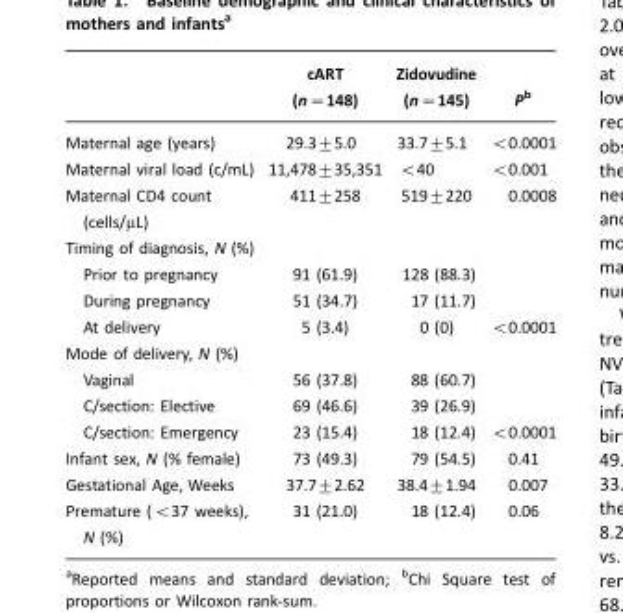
<table><thead><tr><td></td><td>cART (n=148)</td><td>Zidovudine (n=145)</td><td>P<sup>b</sup></td></tr></thead><tbody><tr><td>Maternal age (years)</td><td>29.3±5.0</td><td>33.7±5.1</td><td>&lt;0.0001</td></tr><tr><td>Maternal viral load (c/mL)</td><td>11,478±35,351</td><td>&lt;40</td><td>&lt;0.001</td></tr><tr><td>Maternal CD4 count (cells/µL)</td><td>411±258</td><td>519±220</td><td>0.0008</td></tr><tr><td colspan="4">Timing of diagnosis, N (%)</td></tr><tr><td>Prior to pregnancy</td><td>91 (61.9)</td><td>128 (88.3)</td><td></td></tr><tr><td>During pregnancy</td><td>51 (34.7)</td><td>17 (11.7)</td><td></td></tr><tr><td>At delivery</td><td>5 (3.4)</td><td>0 (0)</td><td>&lt;0.0001</td></tr><tr><td colspan="4">Mode of delivery, N (%)</td></tr><tr><td>Vaginal</td><td>56 (37.8)</td><td>88 (60.7)</td><td></td></tr><tr><td>C/section: Elective</td><td>69 (46.6)</td><td>39 (26.9)</td><td></td></tr><tr><td>C/section: Emergency</td><td>23 (15.4)</td><td>18 (12.4)</td><td>&lt;0.0001</td></tr><tr><td>Infant sex, N (% female)</td><td>73 (49.3)</td><td>79 (54.5)</td><td>0.41</td></tr><tr><td>Gestational Age, Weeks</td><td>37.7±2.62</td><td>38.4±1.94</td><td>0.007</td></tr><tr><td>Premature (&lt;37 weeks), N (%)</td><td>31 (21.0)</td><td>18 (12.4)</td><td>0.06</td></tr></tbody></table>